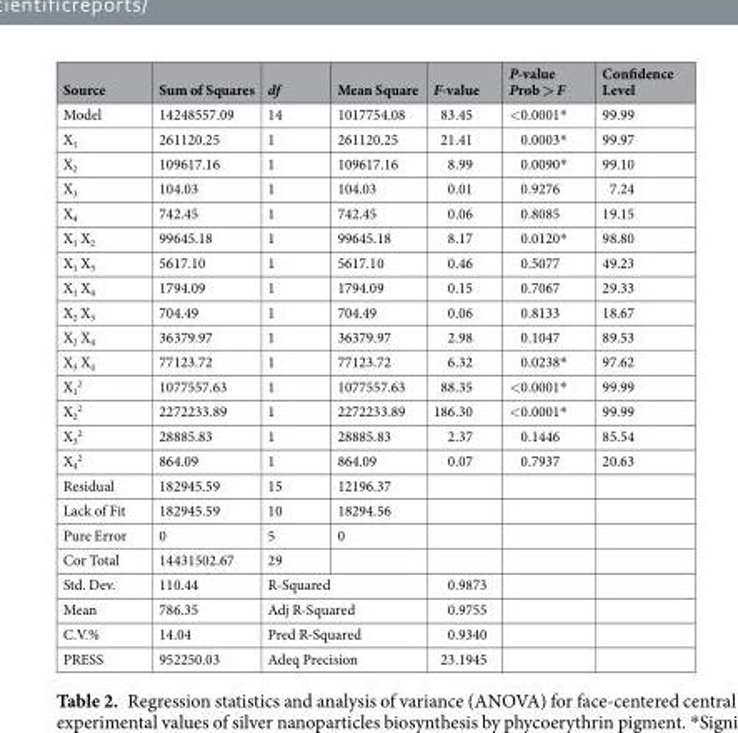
<table><thead><tr><td>Source</td><td>Sum of Squares</td><td>df</td><td>Mean Square</td><td>F-value</td><td>P-value Prob &gt; F</td><td>Confidence Level</td></tr></thead><tbody><tr><td>Model</td><td>14248557.09</td><td>14</td><td>1017754.08</td><td>83.45</td><td>&lt;0.0001*</td><td>99.99</td></tr><tr><td>X<sub>1</sub></td><td>261120.25</td><td>1</td><td>261120.25</td><td>21.41</td><td>0.0003*</td><td>99.97</td></tr><tr><td>X<sub>2</sub></td><td>109617.16</td><td>1</td><td>109617.16</td><td>8.99</td><td>0.0090*</td><td>99.10</td></tr><tr><td>X<sub>3</sub></td><td>104.03</td><td>1</td><td>104.03</td><td>0.01</td><td>0.9276</td><td>7.24</td></tr><tr><td>X<sub>4</sub></td><td>742.45</td><td>1</td><td>742.45</td><td>0.06</td><td>0.8085</td><td>19.15</td></tr><tr><td>X<sub>1</sub> X<sub>2</sub></td><td>99645.18</td><td>1</td><td>99645.18</td><td>8.17</td><td>0.0120*</td><td>98.80</td></tr><tr><td>X<sub>1</sub> X<sub>3</sub></td><td>5617.10</td><td>1</td><td>5617.10</td><td>0.46</td><td>0.5077</td><td>49.23</td></tr><tr><td>X<sub>1</sub> X<sub>4</sub></td><td>1794.09</td><td>1</td><td>1794.09</td><td>0.15</td><td>0.7067</td><td>29.33</td></tr><tr><td>X<sub>2</sub> X<sub>3</sub></td><td>704.49</td><td>1</td><td>704.49</td><td>0.06</td><td>0.8133</td><td>18.67</td></tr><tr><td>X<sub>2</sub> X<sub>4</sub></td><td>36379.97</td><td>1</td><td>36379.97</td><td>2.98</td><td>0.1047</td><td>89.53</td></tr><tr><td>X<sub>3</sub> X<sub>4</sub></td><td>77123.72</td><td>1</td><td>77123.72</td><td>6.32</td><td>0.0238*</td><td>97.62</td></tr><tr><td>X<sub>1</sub> <sup>2</sup></td><td>1077557.63</td><td>1</td><td>1077557.63</td><td>88.35</td><td>&lt;0.0001*</td><td>99.99</td></tr><tr><td>X<sub>2</sub> <sup>2</sup></td><td>2272233.89</td><td>1</td><td>2272233.89</td><td>186.30</td><td>&lt;0.0001*</td><td>99.99</td></tr><tr><td>X<sub>3</sub> <sup>2</sup></td><td>28885.83</td><td>1</td><td>28885.83</td><td>2.37</td><td>0.1446</td><td>85.54</td></tr><tr><td>X<sub>4</sub> <sup>2</sup></td><td>864.09</td><td>1</td><td>864.09</td><td>0.07</td><td>0.7937</td><td>20.63</td></tr><tr><td>Residual</td><td>182945.59</td><td>15</td><td>12196.37</td><td></td><td></td><td></td></tr><tr><td>Lack of Fit</td><td>182945.59</td><td>10</td><td>18294.56</td><td></td><td></td><td></td></tr><tr><td>Pure Error</td><td>0</td><td>5</td><td>0</td><td></td><td></td><td></td></tr><tr><td>Cor Total</td><td>14431502.67</td><td>29</td><td></td><td></td><td></td><td></td></tr><tr><td>Std. Dev.</td><td>110.44</td><td colspan="2">R-Squared</td><td>0.9873</td><td></td><td></td></tr><tr><td>Mean</td><td>786.35</td><td colspan="2">Adj R-Squared</td><td>0.9755</td><td></td><td></td></tr><tr><td>C.V.%</td><td>14.04</td><td colspan="2">Pred R-Squared</td><td>0.9340</td><td></td><td></td></tr><tr><td>PRESS</td><td>952250.03</td><td colspan="2">Adeq Precision</td><td>23.1945</td><td></td><td></td></tr></tbody></table>